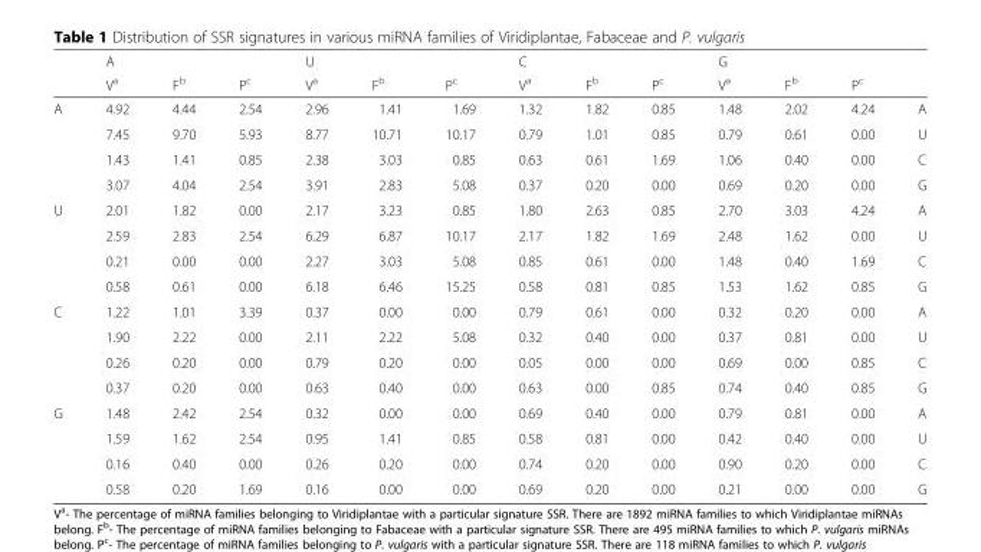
<table><thead><tr><td rowspan="2"></td><td colspan="3">A</td><td colspan="3">U</td><td colspan="3">C</td><td colspan="3">G</td><td rowspan="2"></td></tr><tr><td>V<sup>a</sup></td><td>F<sup>b</sup></td><td>P<sup>c</sup></td><td>V<sup>a</sup></td><td>F<sup>b</sup></td><td>P<sup>c</sup></td><td>V<sup>a</sup></td><td>F<sup>b</sup></td><td>P<sup>c</sup></td><td>V<sup>a</sup></td><td>F<sup>b</sup></td><td>P<sup>c</sup></td></tr></thead><tbody><tr><td rowspan="4">A</td><td>4.92</td><td>4.44</td><td>2.54</td><td>2.96</td><td>1.41</td><td>1.69</td><td>1.32</td><td>1.82</td><td>0.85</td><td>1.48</td><td>2.02</td><td>4.24</td><td>A</td></tr><tr><td>7.45</td><td>9.70</td><td>5.93</td><td>8.77</td><td>10.71</td><td>10.17</td><td>0.79</td><td>1.01</td><td>0.85</td><td>0.79</td><td>0.61</td><td>0.00</td><td>U</td></tr><tr><td>1.43</td><td>1.41</td><td>0.85</td><td>2.38</td><td>3.03</td><td>0.85</td><td>0.63</td><td>0.61</td><td>1.69</td><td>1.06</td><td>0.40</td><td>0.00</td><td>C</td></tr><tr><td>3.07</td><td>4.04</td><td>2.54</td><td>3.91</td><td>2.83</td><td>5.08</td><td>0.37</td><td>0.20</td><td>0.00</td><td>0.69</td><td>0.20</td><td>0.00</td><td>G</td></tr><tr><td rowspan="4">U</td><td>2.01</td><td>1.82</td><td>0.00</td><td>2.17</td><td>3.23</td><td>0.85</td><td>1.80</td><td>2.63</td><td>0.85</td><td>2.70</td><td>3.03</td><td>4.24</td><td>A</td></tr><tr><td>2.59</td><td>2.83</td><td>2.54</td><td>6.29</td><td>6.87</td><td>10.17</td><td>2.17</td><td>1.82</td><td>1.69</td><td>2.48</td><td>1.62</td><td>0.00</td><td>U</td></tr><tr><td>0.21</td><td>0.00</td><td>0.00</td><td>2.27</td><td>3.03</td><td>5.08</td><td>0.85</td><td>0.61</td><td>0.00</td><td>1.48</td><td>0.40</td><td>1.69</td><td>C</td></tr><tr><td>0.58</td><td>0.61</td><td>0.00</td><td>6.18</td><td>6.46</td><td>15.25</td><td>0.58</td><td>0.81</td><td>0.85</td><td>1.53</td><td>1.62</td><td>0.85</td><td>G</td></tr><tr><td rowspan="4">C</td><td>1.22</td><td>1.01</td><td>3.39</td><td>0.37</td><td>0.00</td><td>0.00</td><td>0.79</td><td>0.61</td><td>0.00</td><td>0.32</td><td>0.20</td><td>0.00</td><td>A</td></tr><tr><td>1.90</td><td>2.22</td><td>0.00</td><td>2.11</td><td>2.22</td><td>5.08</td><td>0.32</td><td>0.40</td><td>0.00</td><td>0.37</td><td>0.81</td><td>0.00</td><td>U</td></tr><tr><td>0.26</td><td>0.20</td><td>0.00</td><td>0.79</td><td>0.20</td><td>0.00</td><td>0.05</td><td>0.00</td><td>0.00</td><td>0.69</td><td>0.00</td><td>0.85</td><td>C</td></tr><tr><td>0.37</td><td>0.20</td><td>0.00</td><td>0.63</td><td>0.40</td><td>0.00</td><td>0.63</td><td>0.00</td><td>0.85</td><td>0.74</td><td>0.40</td><td>0.85</td><td>G</td></tr><tr><td rowspan="4">G</td><td>1.48</td><td>2.42</td><td>2.54</td><td>0.32</td><td>0.00</td><td>0.00</td><td>0.69</td><td>0.40</td><td>0.00</td><td>0.79</td><td>0.81</td><td>0.00</td><td>A</td></tr><tr><td>1.59</td><td>1.62</td><td>2.54</td><td>0.95</td><td>1.41</td><td>0.85</td><td>0.58</td><td>0.81</td><td>0.00</td><td>0.42</td><td>0.40</td><td>0.00</td><td>U</td></tr><tr><td>0.16</td><td>0.40</td><td>0.00</td><td>0.26</td><td>0.20</td><td>0.00</td><td>0.74</td><td>0.20</td><td>0.00</td><td>0.90</td><td>0.20</td><td>0.00</td><td>C</td></tr><tr><td>0.58</td><td>0.20</td><td>1.69</td><td>0.16</td><td>0.00</td><td>0.00</td><td>0.69</td><td>0.20</td><td>0.00</td><td>0.21</td><td>0.00</td><td>0.00</td><td>G</td></tr></tbody></table>